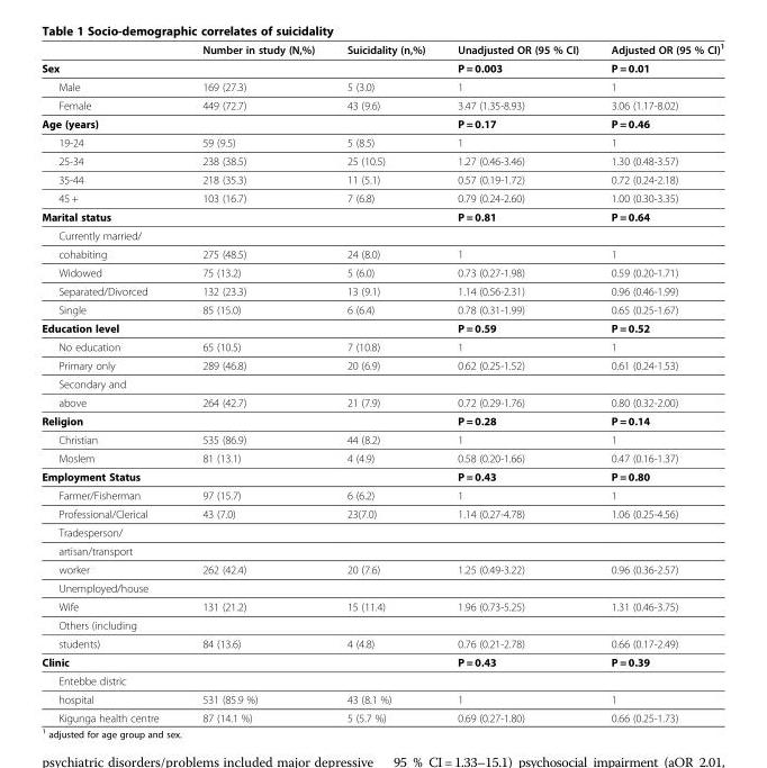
<table><thead><tr><td></td><td>Number in study (N,%)</td><td>Suicidality (n,%)</td><td>Unadjusted OR (95 % CI)</td><td>Adjusted OR (95 % CI)<sup>1</sup></td></tr></thead><tbody><tr><td>Sex</td><td></td><td></td><td>P = 0.003</td><td>P = 0.01</td></tr><tr><td>Male</td><td>169 (27.3)</td><td>5 (3.0)</td><td>1</td><td>1</td></tr><tr><td>Female</td><td>449 (72.7)</td><td>43 (9.6)</td><td>3.47 (1.35-8.93)</td><td>3.06 (1.17-8.02)</td></tr><tr><td>Age (years)</td><td></td><td></td><td>P = 0.17</td><td>P = 0.46</td></tr><tr><td>19-24</td><td>59 (9.5)</td><td>5 (8.5)</td><td>1</td><td>1</td></tr><tr><td>25-34</td><td>238 (38.5)</td><td>25 (10.5)</td><td>1.27 (0.46-3.46)</td><td>1.30 (0.48-3.57)</td></tr><tr><td>35-44</td><td>218 (35.3)</td><td>11 (5.1)</td><td>0.57 (0.19-1.72)</td><td>0.72 (0.24-2.18)</td></tr><tr><td>45 +</td><td>103 (16.7)</td><td>7 (6.8)</td><td>0.79 (0.24-2.60)</td><td>1.00 (0.30-3.35)</td></tr><tr><td>Marital status</td><td></td><td></td><td>P = 0.81</td><td>P = 0.64</td></tr><tr><td colspan="5">Currently married/</td></tr><tr><td>cohabiting</td><td>275 (48.5)</td><td>24 (8.0)</td><td>1</td><td>1</td></tr><tr><td>Widowed</td><td>75 (13.2)</td><td>5 (6.0)</td><td>0.73 (0.27-1.98)</td><td>0.59 (0.20-1.71)</td></tr><tr><td>Separated/Divorced</td><td>132 (23.3)</td><td>13 (9.1)</td><td>1.14 (0.56-2.31)</td><td>0.96 (0.46-1.99)</td></tr><tr><td>Single</td><td>85 (15.0)</td><td>6 (6.4)</td><td>0.78 (0.31-1.99)</td><td>0.65 (0.25-1.67)</td></tr><tr><td>Education level</td><td></td><td></td><td>P = 0.59</td><td>P = 0.52</td></tr><tr><td>No education</td><td>65 (10.5)</td><td>7 (10.8)</td><td>1</td><td>1</td></tr><tr><td>Primary only</td><td>289 (46.8)</td><td>20 (6.9)</td><td>0.62 (0.25-1.52)</td><td>0.61 (0.24-1.53)</td></tr><tr><td colspan="5">Secondary and</td></tr><tr><td>above</td><td>264 (42.7)</td><td>21 (7.9)</td><td>0.72 (0.29-1.76)</td><td>0.80 (0.32-2.00)</td></tr><tr><td>Religion</td><td></td><td></td><td>P = 0.28</td><td>P = 0.14</td></tr><tr><td>Christian</td><td>535 (86.9)</td><td>44 (8.2)</td><td>1</td><td>1</td></tr><tr><td>Moslem</td><td>81 (13.1)</td><td>4 (4.9)</td><td>0.58 (0.20-1.66)</td><td>0.47 (0.16-1.37)</td></tr><tr><td>Employment Status</td><td></td><td></td><td>P = 0.43</td><td>P = 0.80</td></tr><tr><td>Farmer/Fisherman</td><td>97 (15.7)</td><td>6 (6.2)</td><td>1</td><td>1</td></tr><tr><td>Professional/Clerical</td><td>43 (7.0)</td><td>23(7.0)</td><td>1.14 (0.27-4.78)</td><td>1.06 (0.25-4.56)</td></tr><tr><td colspan="5">Tradesperson/</td></tr><tr><td colspan="5">artisan/transport</td></tr><tr><td>worker</td><td>262 (42.4)</td><td>20 (7.6)</td><td>1.25 (0.49-3.22)</td><td>0.96 (0.36-2.57)</td></tr><tr><td colspan="5">Unemployed/house</td></tr><tr><td>Wife</td><td>131 (21.2)</td><td>15 (11.4)</td><td>1.96 (0.73-5.25)</td><td>1.31 (0.46-3.75)</td></tr><tr><td colspan="5">Others (including</td></tr><tr><td>students)</td><td>84 (13.6)</td><td>4 (4.8)</td><td>0.76 (0.21-2.78)</td><td>0.66 (0.17-2.49)</td></tr><tr><td>Clinic</td><td></td><td></td><td>P = 0.43</td><td>P = 0.39</td></tr><tr><td colspan="5">Entebbe distric</td></tr><tr><td>hospital</td><td>531 (85.9 %)</td><td>43 (8.1 %)</td><td>1</td><td>1</td></tr><tr><td>Kigunga health centre</td><td>87 (14.1 %)</td><td>5 (5.7 %)</td><td>0.69 (0.27-1.80)</td><td>0.66 (0.25-1.73)</td></tr></tbody></table>